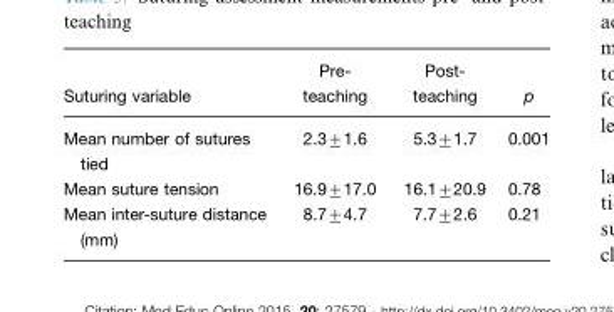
<table><thead><tr><td>Suturing variable</td><td>Pre- teaching</td><td>Post- teaching</td><td>p</td></tr></thead><tbody><tr><td>Mean number of sutures tied</td><td>2.3±1.6</td><td>5.3±1.7</td><td>0.001</td></tr><tr><td>Mean suture tension</td><td>16.9±17.0</td><td>16.1±20.9</td><td>0.78</td></tr><tr><td>Mean inter-suture distance (mm)</td><td>8.7±4.7</td><td>7.7±2.6</td><td>0.21</td></tr></tbody></table>